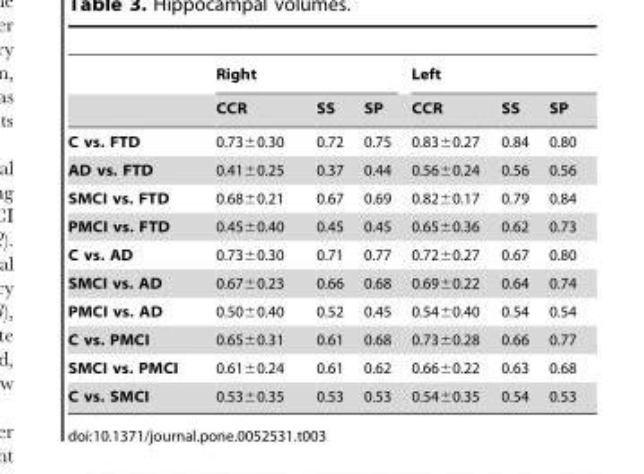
<table><thead><tr><td rowspan="2"></td><td colspan="3">Right</td><td colspan="3">Left</td></tr><tr><td>CCR</td><td>SS</td><td>SP</td><td>CCR</td><td>SS</td><td>SP</td></tr></thead><tbody><tr><td>C vs. FTD</td><td>0.73±0.30</td><td>0.72</td><td>0.75</td><td>0.83±0.27</td><td>0.84</td><td>0.80</td></tr><tr><td>AD vs. FTD</td><td>0.41±0.25</td><td>0.37</td><td>0.44</td><td>0.56±0.24</td><td>0.56</td><td>0.56</td></tr><tr><td>SMCI vs. FTD</td><td>0.68±0.21</td><td>0.67</td><td>0.69</td><td>0.82±0.17</td><td>0.79</td><td>0.84</td></tr><tr><td>PMCI vs. FTD</td><td>0.45±0.40</td><td>0.45</td><td>0.45</td><td>0.65±0.36</td><td>0.62</td><td>0.73</td></tr><tr><td>C vs. AD</td><td>0.73±0.30</td><td>0.71</td><td>0.77</td><td>0.72±0.27</td><td>0.67</td><td>0.80</td></tr><tr><td>SMCI vs. AD</td><td>0.67±0.23</td><td>0.66</td><td>0.68</td><td>0.69±0.22</td><td>0.64</td><td>0.74</td></tr><tr><td>PMCI vs. AD</td><td>0.50±0.40</td><td>0.52</td><td>0.45</td><td>0.54±0.40</td><td>0.54</td><td>0.54</td></tr><tr><td>C vs. PMCI</td><td>0.65±0.31</td><td>0.61</td><td>0.68</td><td>0.73±0.28</td><td>0.66</td><td>0.77</td></tr><tr><td>SMCI vs. PMCI</td><td>0.61±0.24</td><td>0.61</td><td>0.62</td><td>0.66±0.22</td><td>0.63</td><td>0.68</td></tr><tr><td>C vs. SMCI</td><td>0.53±0.35</td><td>0.53</td><td>0.53</td><td>0.54±0.35</td><td>0.54</td><td>0.53</td></tr></tbody></table>